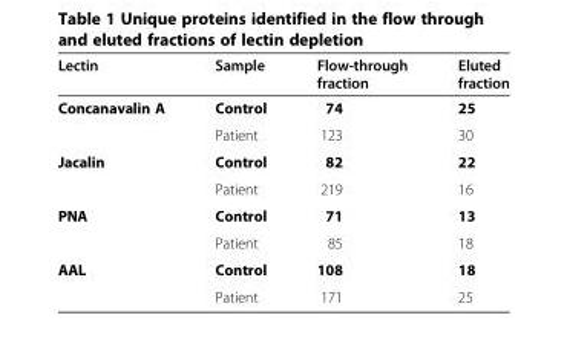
<table><thead><tr><td>Lectin</td><td>Sample</td><td>Flow-through fraction</td><td>Eluted fraction</td></tr></thead><tbody><tr><td rowspan="2">Concanavalin A</td><td>Control</td><td>74</td><td>25</td></tr><tr><td>Patient</td><td>123</td><td>30</td></tr><tr><td rowspan="2">Jacalin</td><td>Control</td><td>82</td><td>22</td></tr><tr><td>Patient</td><td>219</td><td>16</td></tr><tr><td rowspan="2">PNA</td><td>Control</td><td>71</td><td>13</td></tr><tr><td>Patient</td><td>85</td><td>18</td></tr><tr><td rowspan="2">AAL</td><td>Control</td><td>108</td><td>18</td></tr><tr><td>Patient</td><td>171</td><td>25</td></tr></tbody></table>